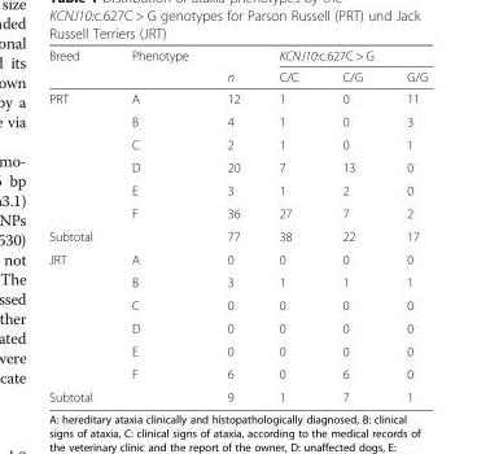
<table><thead><tr><td rowspan="2">Breed</td><td rowspan="2">Phenotype</td><td rowspan="2">n</td><td colspan="3">KCNJ10:c.627C &gt; G</td></tr><tr><td>C/C</td><td>C/G</td><td>G/G</td></tr></thead><tbody><tr><td rowspan="6">PRT</td><td>A</td><td>12</td><td>1</td><td>0</td><td>11</td></tr><tr><td>B</td><td>4</td><td>1</td><td>0</td><td>3</td></tr><tr><td>C</td><td>2</td><td>1</td><td>0</td><td>1</td></tr><tr><td>D</td><td>20</td><td>7</td><td>13</td><td>0</td></tr><tr><td>E</td><td>3</td><td>1</td><td>2</td><td>0</td></tr><tr><td>F</td><td>36</td><td>27</td><td>7</td><td>2</td></tr><tr><td>Subtotal</td><td></td><td>77</td><td>38</td><td>22</td><td>17</td></tr><tr><td rowspan="6">JRT</td><td>A</td><td>0</td><td>0</td><td>0</td><td>0</td></tr><tr><td>B</td><td>3</td><td>1</td><td>1</td><td>1</td></tr><tr><td>C</td><td>0</td><td>0</td><td>0</td><td>0</td></tr><tr><td>D</td><td>0</td><td>0</td><td>0</td><td>0</td></tr><tr><td>E</td><td>0</td><td>0</td><td>0</td><td>0</td></tr><tr><td>F</td><td>6</td><td>0</td><td>6</td><td>0</td></tr><tr><td>Subtotal</td><td></td><td>9</td><td>1</td><td>7</td><td>1</td></tr></tbody></table>